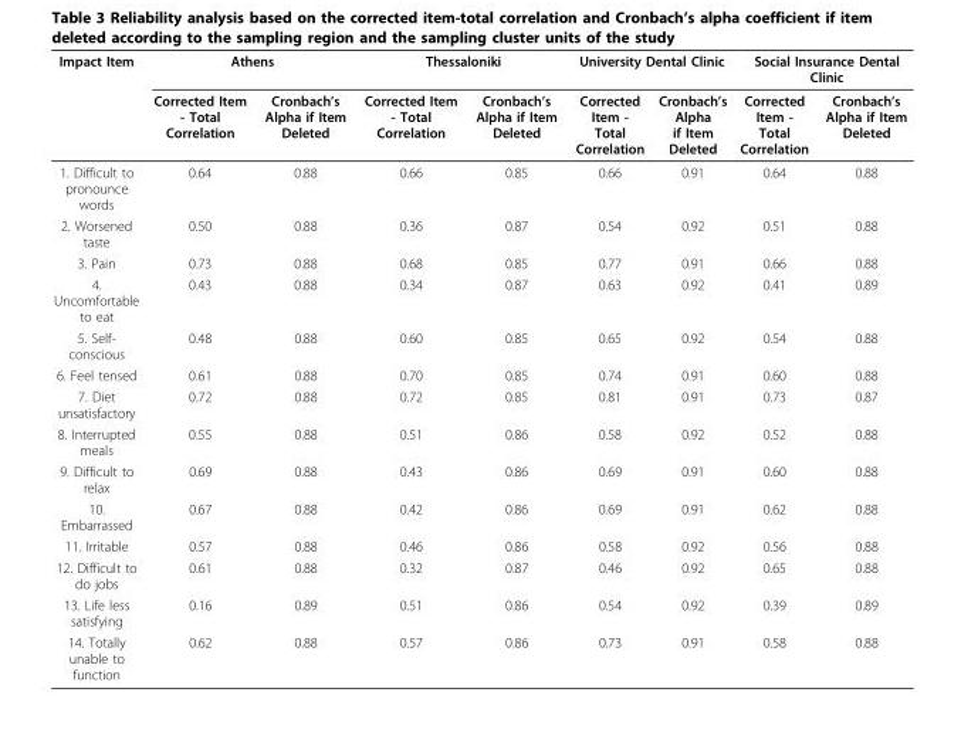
<table><thead><tr><td rowspan="2">Impact Item</td><td colspan="2">Athens</td><td colspan="2">Thessaloniki</td><td colspan="2">University Dental Clinic</td><td colspan="2">Social Insurance Dental Clinic</td></tr><tr><td>Corrected Item - Total Correlation</td><td>Cronbach’s Alpha if Item Deleted</td><td>Corrected Item - Total Correlation</td><td>Cronbach’s Alpha if Item Deleted</td><td>Corrected Item - Total Correlation</td><td>Cronbach’s Alpha if Item Deleted</td><td>Corrected Item - Total Correlation</td><td>Cronbach’s Alpha if Item Deleted</td></tr></thead><tbody><tr><td>1. Difficult to pronounce words</td><td>0.64</td><td>0.88</td><td>0.66</td><td>0.85</td><td>0.66</td><td>0.91</td><td>0.64</td><td>0.88</td></tr><tr><td>2. Worsened taste</td><td>0.50</td><td>0.88</td><td>0.36</td><td>0.87</td><td>0.54</td><td>0.92</td><td>0.51</td><td>0.88</td></tr><tr><td>3. Pain</td><td>0.73</td><td>0.88</td><td>0.68</td><td>0.85</td><td>0.77</td><td>0.91</td><td>0.66</td><td>0.88</td></tr><tr><td>4. Uncomfortable to eat</td><td>0.43</td><td>0.88</td><td>0.34</td><td>0.87</td><td>0.63</td><td>0.92</td><td>0.41</td><td>0.89</td></tr><tr><td>5. Self- conscious</td><td>0.48</td><td>0.88</td><td>0.60</td><td>0.85</td><td>0.65</td><td>0.92</td><td>0.54</td><td>0.88</td></tr><tr><td>6. Feel tensed</td><td>0.61</td><td>0.88</td><td>0.70</td><td>0.85</td><td>0.74</td><td>0.91</td><td>0.60</td><td>0.88</td></tr><tr><td>7. Diet unsatisfactory</td><td>0.72</td><td>0.88</td><td>0.72</td><td>0.85</td><td>0.81</td><td>0.91</td><td>0.73</td><td>0.87</td></tr><tr><td>8. Interrupted meals</td><td>0.55</td><td>0.88</td><td>0.51</td><td>0.86</td><td>0.58</td><td>0.92</td><td>0.52</td><td>0.88</td></tr><tr><td>9. Difficult to relax</td><td>0.69</td><td>0.88</td><td>0.43</td><td>0.86</td><td>0.69</td><td>0.91</td><td>0.60</td><td>0.88</td></tr><tr><td>10. Embarrassed</td><td>0.67</td><td>0.88</td><td>0.42</td><td>0.86</td><td>0.69</td><td>0.91</td><td>0.62</td><td>0.88</td></tr><tr><td>11. Irritable</td><td>0.57</td><td>0.88</td><td>0.46</td><td>0.86</td><td>0.58</td><td>0.92</td><td>0.56</td><td>0.88</td></tr><tr><td>12. Difficult to do jobs</td><td>0.61</td><td>0.88</td><td>0.32</td><td>0.87</td><td>0.46</td><td>0.92</td><td>0.65</td><td>0.88</td></tr><tr><td>13. Life less satisfying</td><td>0.16</td><td>0.89</td><td>0.51</td><td>0.86</td><td>0.54</td><td>0.92</td><td>0.39</td><td>0.89</td></tr><tr><td>14. Totally unable to function</td><td>0.62</td><td>0.88</td><td>0.57</td><td>0.86</td><td>0.73</td><td>0.91</td><td>0.58</td><td>0.88</td></tr></tbody></table>